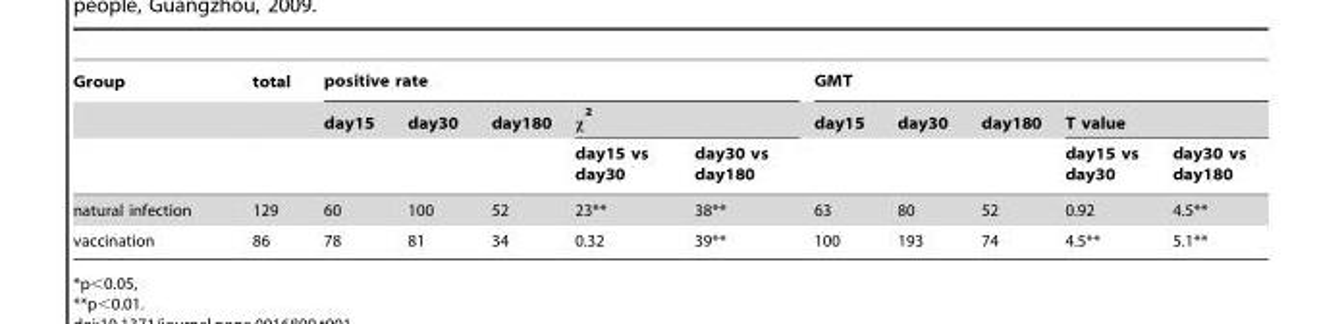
<table><thead><tr><td rowspan="3">Group</td><td rowspan="3">total</td><td colspan="5">positive rate</td><td colspan="5">GMT</td></tr><tr><td rowspan="2">day15</td><td rowspan="2">day30</td><td rowspan="2">day180</td><td colspan="2">χ <sup>2</sup></td><td rowspan="2">day15</td><td rowspan="2">day30</td><td rowspan="2">day180</td><td colspan="2">T value</td></tr><tr><td>day15 vs day30</td><td>day30 vs day180</td><td>day15 vs day30</td><td>day30 vs day180</td></tr></thead><tbody><tr><td>natural infection</td><td>129</td><td>60</td><td>100</td><td>52</td><td>23**</td><td>38**</td><td>63</td><td>80</td><td>52</td><td>0.92</td><td>4.5**</td></tr><tr><td>vaccination</td><td>86</td><td>78</td><td>81</td><td>34</td><td>0.32</td><td>39**</td><td>100</td><td>193</td><td>74</td><td>4.5**</td><td>5.1**</td></tr></tbody></table>